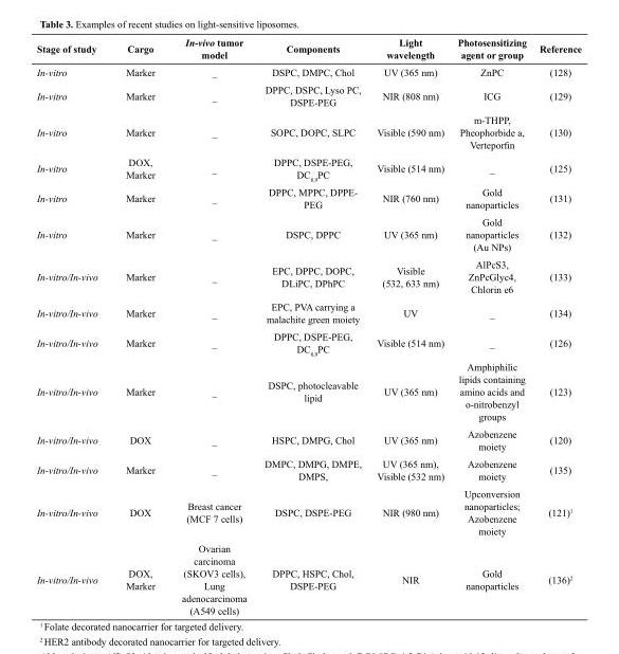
<table><thead><tr><td>Stage of study</td><td>Cargo</td><td>In-vivo tumor model</td><td>Components</td><td>Light wavelength</td><td>Photosensitizing agent or group</td><td>Reference</td></tr></thead><tbody><tr><td>In-vitro</td><td>Marker</td><td>_</td><td>DSPC, DMPC, Chol</td><td>UV (365 nm)</td><td>ZnPC</td><td>(128)</td></tr><tr><td>In-vitro</td><td>Marker</td><td>_</td><td>DPPC, DSPC, Lyso PC, DSPE-PEG</td><td>NIR (808 nm)</td><td>ICG</td><td>(129)</td></tr><tr><td>In-vitro</td><td>Marker</td><td>_</td><td>SOPC, DOPC, SLPC</td><td>Visible (590 nm)</td><td>m-THPP, Pheophorbide a, Verteporfin</td><td>(130)</td></tr><tr><td>In-vitro</td><td>DOX, Marker</td><td>_</td><td>DPPC, DSPE-PEG, DC<sub>8,9</sub>PC</td><td>Visible (514 nm)</td><td>_</td><td>(125)</td></tr><tr><td>In-vitro</td><td>Marker</td><td>_</td><td>DPPC, MPPC, DPPE- PEG</td><td>NIR (760 nm)</td><td>Gold nanoparticles</td><td>(131)</td></tr><tr><td>In-vitro</td><td>Marker</td><td>_</td><td>DSPC, DPPC</td><td>UV (365 nm)</td><td>Gold nanoparticles (Au NPs)</td><td>(132)</td></tr><tr><td>In-vitro/In-vivo</td><td>Marker</td><td>_</td><td>EPC, DPPC, DOPC, DLiPC, DPhPC</td><td>Visible (532, 633 nm)</td><td>AlPcS3, ZnPcGlyc4, Chlorin e6</td><td>(133)</td></tr><tr><td>In-vitro/In-vivo</td><td>Marker</td><td>_</td><td>EPC, PVA carrying a malachite green moiety</td><td>UV</td><td>_</td><td>(134)</td></tr><tr><td>In-vitro/In-vivo</td><td>Marker</td><td>_</td><td>DPPC, DSPE-PEG, DC<sub>8,9</sub>PC</td><td>Visible (514 nm)</td><td>_</td><td>(126)</td></tr><tr><td>In-vitro/In-vivo</td><td>Marker</td><td>_</td><td>DSPC, photocleavable lipid</td><td>UV (365 nm)</td><td>Amphiphilic lipids containing amino acids and o-nitrobenzyl groups</td><td>(123)</td></tr><tr><td>In-vitro/In-vivo</td><td>DOX</td><td>_</td><td>HSPC, DMPG, Chol</td><td>UV (365 nm)</td><td>Azobenzene moiety</td><td>(120)</td></tr><tr><td>In-vitro/In-vivo</td><td>Marker</td><td>_</td><td>DMPC, DMPG, DMPE, DMPS,</td><td>UV (365 nm), Visible (532 nm)</td><td>Azobenzene moiety</td><td>(135)</td></tr><tr><td>In-vitro/In-vivo</td><td>DOX</td><td>Breast cancer (MCF 7 cells)</td><td>DSPC, DSPE-PEG</td><td>NIR (980 nm)</td><td>Upconversion nanoparticles; Azobenzene moiety</td><td>(121)<sup>1</sup></td></tr><tr><td>In-vitro/In-vivo</td><td>DOX, Marker</td><td>Ovarian carcinoma (SKOV3 cells), Lung adenocarcinoma (A549 cells)</td><td>DPPC, HSPC, Chol, DSPE-PEG</td><td>NIR</td><td>Gold nanoparticles</td><td>(136)<sup>2</sup></td></tr></tbody></table>